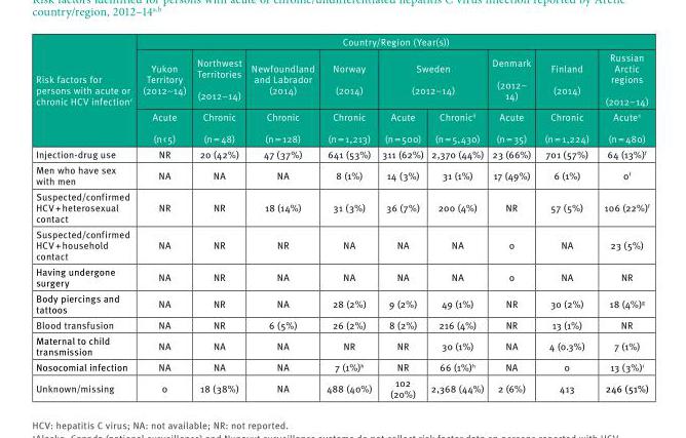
<table><thead><tr><td rowspan="3">Risk factors for persons with acute or chronic HCV infection<sup>c</sup></td><td colspan="9">Country/Region (Year(s))</td></tr><tr><td rowspan="2">Yukon Territory (2012–14) Acute (n &lt; 5)</td><td rowspan="2">Northwest Territories (2012–14) Chronic (n = 48)</td><td rowspan="2">Newfoundland and Labrador (2014) Chronic (n = 128)</td><td rowspan="2">Norway (2014) Chronic (n = 1,213)</td><td colspan="2">Sweden (2012–14)</td><td rowspan="2">Denmark (2012– 14) Acute (n = 35)</td><td rowspan="2">Finland (2014) Chronic (n = 1,224)</td><td rowspan="2">Russian Arctic regions (2012–14) Acute<sup>e</sup> (n = 480)</td></tr><tr><td>Acute (n = 500)</td><td>Chronic<sup>d</sup> (n = 5,430)</td></tr></thead><tbody><tr><td>Injection-drug use</td><td>NR</td><td>20 (42%)</td><td>47 (37%)</td><td>641 (53%)</td><td>311 (62%)</td><td>2,370 (44%)</td><td>23 (66%)</td><td>701 (57%)</td><td>64 (13%)<sup>f</sup></td></tr><tr><td>Men who have sex with men</td><td>NA</td><td>NA</td><td>NA</td><td>8 (1%)</td><td>14 (3%)</td><td>31 (1%)</td><td>17 (49%)</td><td>6 (1%)</td><td>0<sup>f</sup></td></tr><tr><td>Suspected/confirmed HCV + heterosexual contact</td><td>NR</td><td>NR</td><td>18 (14%)</td><td>31 (3%)</td><td>36 (7%)</td><td>200 (4%)</td><td>NR</td><td>57 (5%)</td><td>106 (22%)<sup>f</sup></td></tr><tr><td>Suspected/confirmed HCV + household contact</td><td>NA</td><td>NR</td><td>NR</td><td>NA</td><td>NA</td><td>NA</td><td>0</td><td>NA</td><td>23 (5%)</td></tr><tr><td>Having undergone surgery</td><td>NA</td><td>NR</td><td>NA</td><td>NA</td><td>NA</td><td>NA</td><td>0</td><td>NA</td><td>NR</td></tr><tr><td>Body piercings and tattoos</td><td>NA</td><td>NR</td><td>NA</td><td>28 (2%)</td><td>9 (2%)</td><td>49 (1%)</td><td>NR</td><td>30 (2%)</td><td>18 (4%)<sup>g</sup></td></tr><tr><td>Blood transfusion</td><td>NA</td><td>NR</td><td>6 (5%)</td><td>26 (2%)</td><td>8 (2%)</td><td>216 (4%)</td><td>NR</td><td>13 (1%)</td><td>NR</td></tr><tr><td>Maternal to child transmission</td><td>NA</td><td>NA</td><td>NA</td><td>NR</td><td>NR</td><td>30 (1%)</td><td>NA</td><td>4 (0.3%)</td><td>7 (1%)</td></tr><tr><td>Nosocomial infection</td><td>NA</td><td>NA</td><td>NA</td><td>7 (1%)<sup>h</sup></td><td>NR</td><td>66 (1%)<sup>h</sup></td><td>NA</td><td>0</td><td>13 (3%)<sup>i</sup></td></tr><tr><td>Unknown/missing</td><td>0</td><td>18 (38%)</td><td>NA</td><td>488 (40%)</td><td>102 (20%)</td><td>2,368 (44%)</td><td>2 (6%)</td><td>413</td><td>246 (51%)</td></tr></tbody></table>